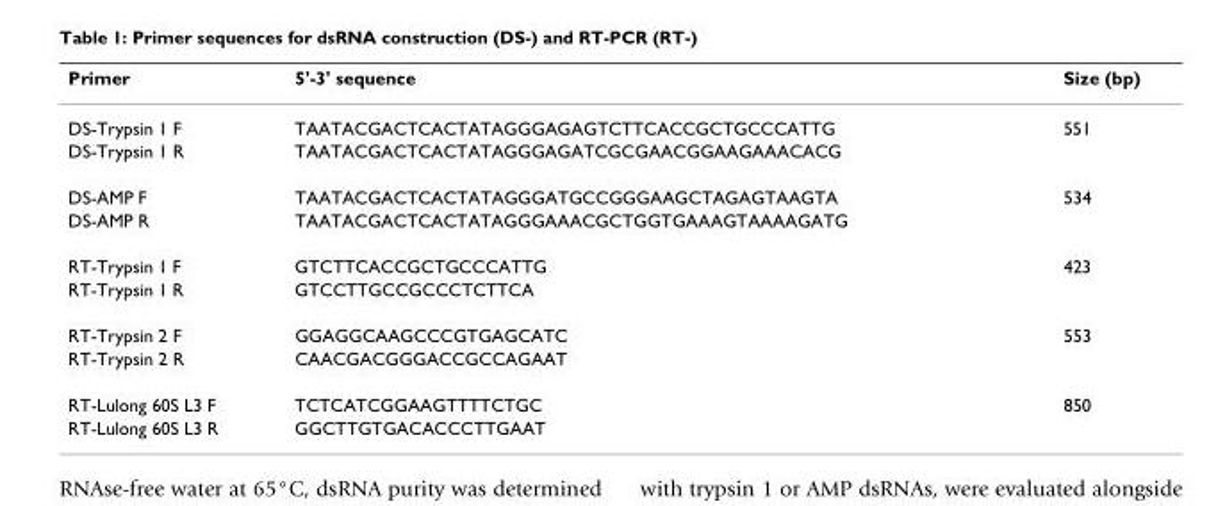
<table><thead><tr><td>Primer</td><td>5&#x27;-3&#x27; sequence</td><td>Size (bp)</td></tr></thead><tbody><tr><td>DS-Trypsin 1 F</td><td>TAATACGACTCACTATAGGGAGAGTCTTCACCGCTGCCCATTG</td><td>551</td></tr><tr><td>DS-Trypsin 1 R</td><td>TAATACGACTCACTATAGGGAGATCGCGAACGGAAGAAACACG</td><td></td></tr><tr><td>DS-AMP F</td><td>TAATACGACTCACTATAGGGATGCCGGGAAGCTAGAGTAAGTA</td><td>534</td></tr><tr><td>DS-AMP R</td><td>TAATACGACTCACTATAGGGAAACGCTGGTGAAAGTAAAAGATG</td><td></td></tr><tr><td>RT-Trypsin 1 F</td><td>GTCTTCACCGCTGCCCATTG</td><td>423</td></tr><tr><td>RT-Trypsin 1 R</td><td>GTCCTTGCCGCCCTCTTCA</td><td></td></tr><tr><td>RT-Trypsin 2 F</td><td>GGAGGCAAGCCCGTGAGCATC</td><td>553</td></tr><tr><td>RT-Trypsin 2 R</td><td>CAACGACGGGACCGCCAGAAT</td><td></td></tr><tr><td>RT-Lulong 60S L3 F</td><td>TCTCATCGGAAGTTTTCTGC</td><td>850</td></tr><tr><td>RT-Lulong 60S L3 R</td><td>GGCTTGTGACACCCTTGAAT</td><td></td></tr></tbody></table>